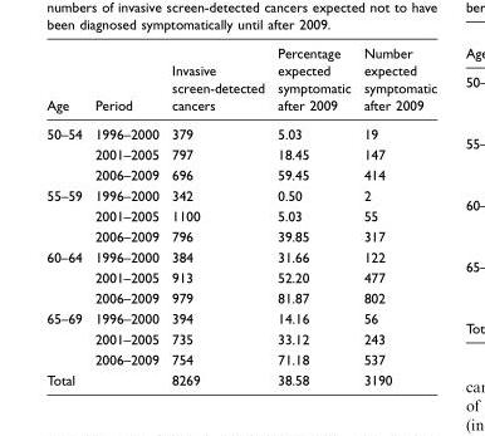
<table><thead><tr><td>Age</td><td>Period</td><td>Invasive screen-detected cancers</td><td>Percentage expected symptomatic after 2009</td><td>Number expected symptomatic after 2009</td></tr></thead><tbody><tr><td rowspan="3">50–54</td><td>1996–2000</td><td>379</td><td>5.03</td><td>19</td></tr><tr><td>2001–2005</td><td>797</td><td>18.45</td><td>147</td></tr><tr><td>2006–2009</td><td>696</td><td>59.45</td><td>414</td></tr><tr><td rowspan="3">55–59</td><td>1996–2000</td><td>342</td><td>0.50</td><td>2</td></tr><tr><td>2001–2005</td><td>1100</td><td>5.03</td><td>55</td></tr><tr><td>2006–2009</td><td>796</td><td>39.85</td><td>317</td></tr><tr><td rowspan="3">60–64</td><td>1996–2000</td><td>384</td><td>31.66</td><td>122</td></tr><tr><td>2001–2005</td><td>913</td><td>52.20</td><td>477</td></tr><tr><td>2006–2009</td><td>979</td><td>81.87</td><td>802</td></tr><tr><td rowspan="3">65–69</td><td>1996–2000</td><td>394</td><td>14.16</td><td>56</td></tr><tr><td>2001–2005</td><td>735</td><td>33.12</td><td>243</td></tr><tr><td>2006–2009</td><td>754</td><td>71.18</td><td>537</td></tr><tr><td colspan="2">Total</td><td>8269</td><td>38.58</td><td>3190</td></tr></tbody></table>